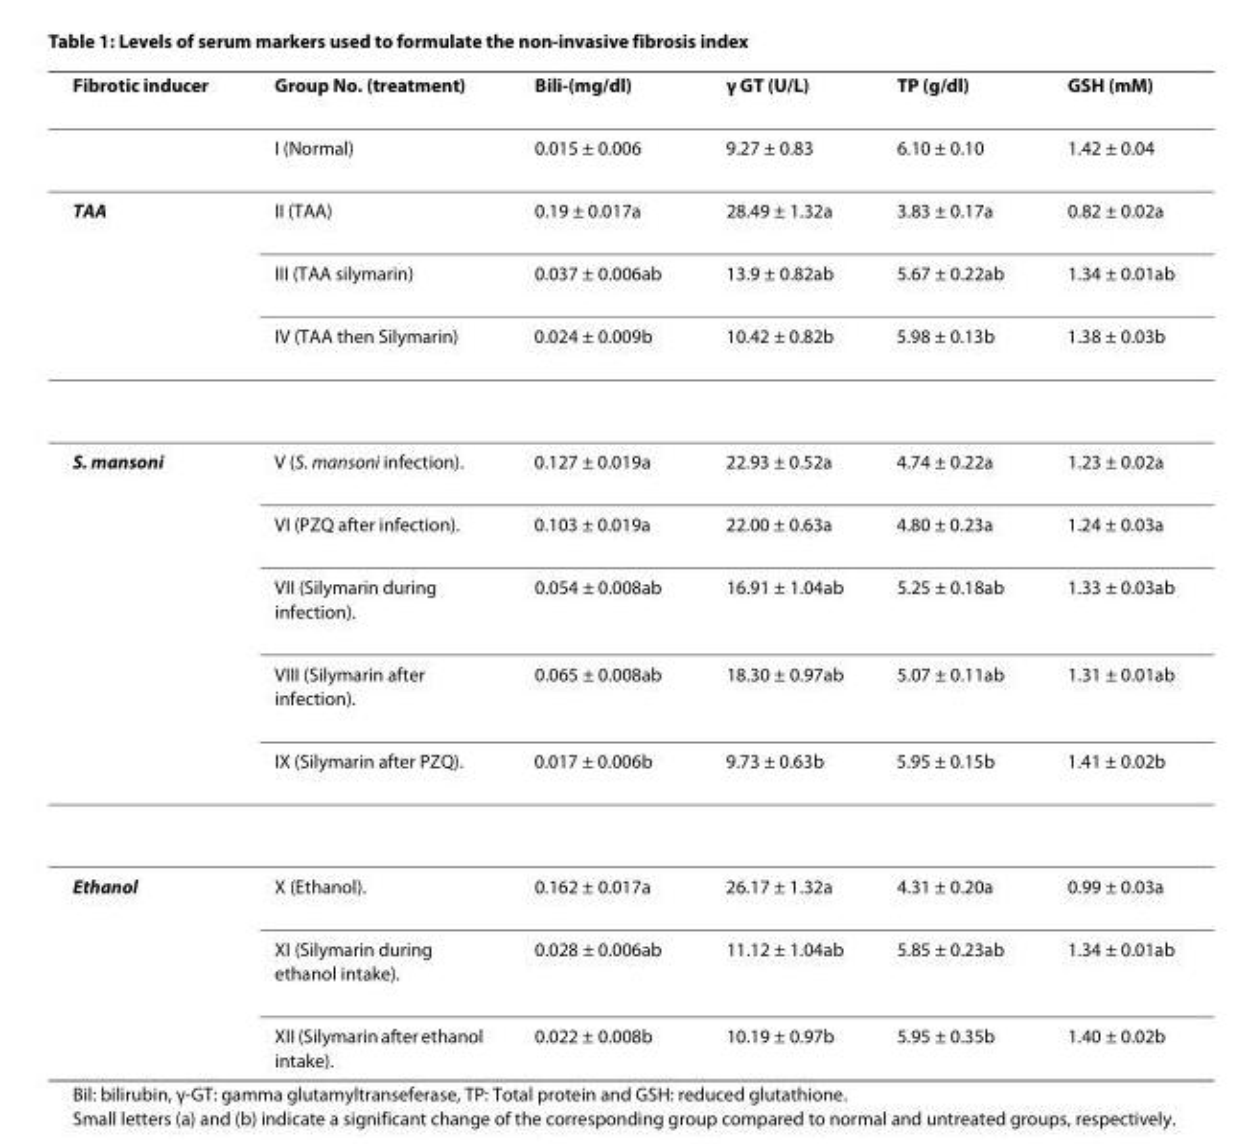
<table><thead><tr><td>Fibrotic inducer</td><td>Group No. (treatment)</td><td>Bili-(mg/dl)</td><td>γ GT (U/L)</td><td>TP (g/dl)</td><td>GSH (mM)</td></tr></thead><tbody><tr><td></td><td>I (Normal)</td><td>0.015 ± 0.006</td><td>9.27 ± 0.83</td><td>6.10 ± 0.10</td><td>1.42 ± 0.04</td></tr><tr><td rowspan="3">TAA</td><td>II (TAA)</td><td>0.19 ± 0.017a</td><td>28.49 ± 1.32a</td><td>3.83 ± 0.17a</td><td>0.82 ± 0.02a</td></tr><tr><td>III (TAA silymarin)</td><td>0.037 ± 0.006ab</td><td>13.9 ± 0.82ab</td><td>5.67 ± 0.22ab</td><td>1.34 ± 0.01ab</td></tr><tr><td>IV (TAA then Silymarin)</td><td>0.024 ± 0.009b</td><td>10.42 ± 0.82b</td><td>5.98 ± 0.13b</td><td>1.38 ± 0.03b</td></tr><tr><td rowspan="5">S. mansoni</td><td>V (S. mansoni infection).</td><td>0.127 ± 0.019a</td><td>22.93 ± 0.52a</td><td>4.74 ± 0.22a</td><td>1.23 ± 0.02a</td></tr><tr><td>VI (PZQ after infection).</td><td>0.103 ± 0.019a</td><td>22.00 ± 0.63a</td><td>4.80 ± 0.23a</td><td>1.24 ± 0.03a</td></tr><tr><td>VII (Silymarin during infection).</td><td>0.054 ± 0.008ab</td><td>16.91 ± 1.04ab</td><td>5.25 ± 0.18ab</td><td>1.33 ± 0.03ab</td></tr><tr><td>VIII (Silymarin after infection).</td><td>0.065 ± 0.008ab</td><td>18.30 ± 0.97ab</td><td>5.07 ± 0.11ab</td><td>1.31 ± 0.01ab</td></tr><tr><td>IX (Silymarin after PZQ).</td><td>0.017 ± 0.006b</td><td>9.73 ± 0.63b</td><td>5.95 ± 0.15b</td><td>1.41 ± 0.02b</td></tr><tr><td rowspan="3">Ethanol</td><td>X (Ethanol).</td><td>0.162 ± 0.017a</td><td>26.17 ± 1.32a</td><td>4.31 ± 0.20a</td><td>0.99 ± 0.03a</td></tr><tr><td>XI (Silymarin during ethanol intake).</td><td>0.028 ± 0.006ab</td><td>11.12 ± 1.04ab</td><td>5.85 ± 0.23ab</td><td>1.34 ± 0.01ab</td></tr><tr><td>XII (Silymarin after ethanol intake).</td><td>0.022 ± 0.008b</td><td>10.19 ± 0.97b</td><td>5.95 ± 0.35b</td><td>1.40 ± 0.02b</td></tr></tbody></table>